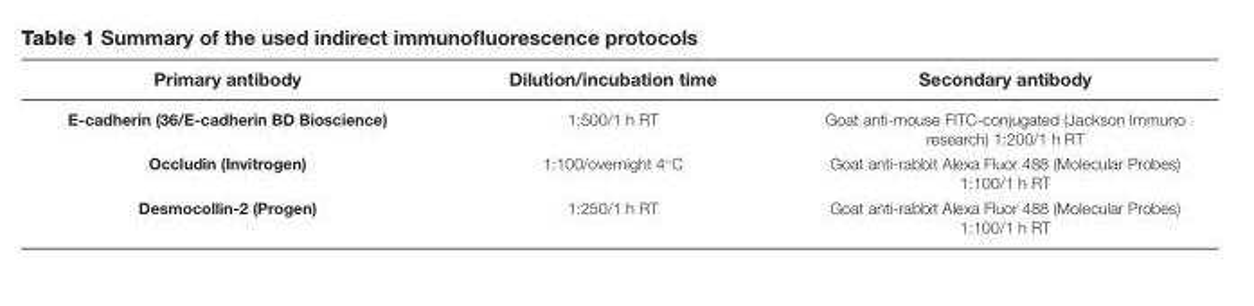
<table><thead><tr><td>Primary antibody</td><td>Dilution/incubation time</td><td>Secondary antibody</td></tr></thead><tbody><tr><td>E-cadherin (36/E-cadherin BD Bioscience)</td><td>1:500/1 h RT</td><td>Goat anti-mouse FITC-conjugated (Jackson Immuno research) 1:200/1 h RT</td></tr><tr><td>Occludin (Invitrogen)</td><td>1:100/overnight 4◦C</td><td>Goat anti-rabbit Alexa Fluor 488 (Molecular Probes) 1:100/1 h RT</td></tr><tr><td>Desmocollin-2 (Progen)</td><td>1:250/1 h RT</td><td>Goat anti-rabbit Alexa Fluor 488 (Molecular Probes) 1:100/1 h RT</td></tr></tbody></table>